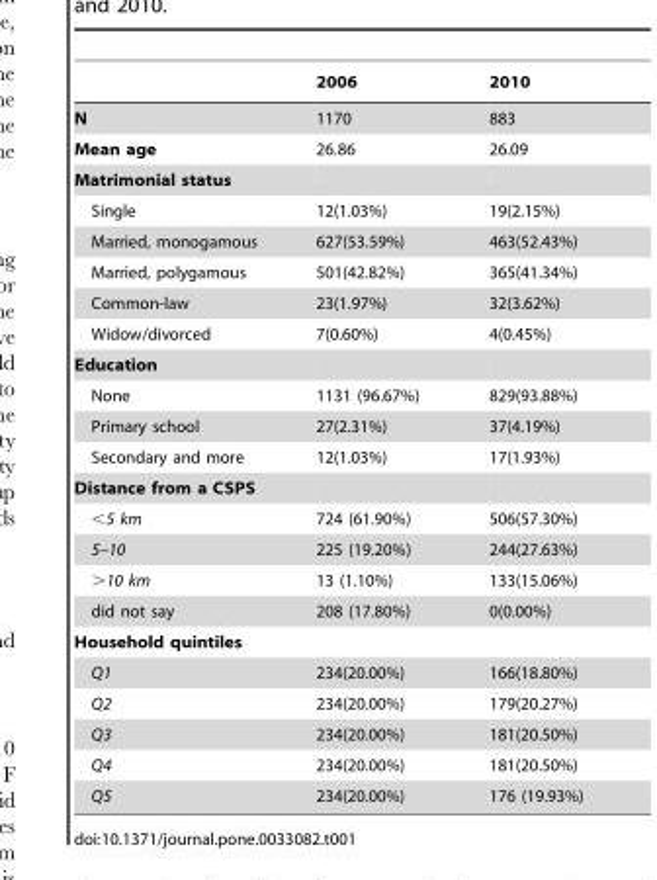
<table><thead><tr><td></td><td>2006</td><td>2010</td></tr></thead><tbody><tr><td>N</td><td>1170</td><td>883</td></tr><tr><td>Mean age</td><td>26.86</td><td>26.09</td></tr><tr><td colspan="3">Matrimonial status</td></tr><tr><td>Single</td><td>12(1.03%)</td><td>19(2.15%)</td></tr><tr><td>Married, monogamous</td><td>627(53.59%)</td><td>463(52.43%)</td></tr><tr><td>Married, polygamous</td><td>501(42.82%)</td><td>365(41.34%)</td></tr><tr><td>Common-law</td><td>23(1.97%)</td><td>32(3.62%)</td></tr><tr><td>Widow/divorced</td><td>7(0.60%)</td><td>4(0.45%)</td></tr><tr><td colspan="3">Education</td></tr><tr><td>None</td><td>1131 (96.67%)</td><td>829(93.88%)</td></tr><tr><td>Primary school</td><td>27(2.31%)</td><td>37(4.19%)</td></tr><tr><td>Secondary and more</td><td>12(1.03%)</td><td>17(1.93%)</td></tr><tr><td colspan="3">Distance from a CSPS</td></tr><tr><td>&lt;5 km</td><td>724 (61.90%)</td><td>506(57.30%)</td></tr><tr><td>5–10</td><td>225 (19.20%)</td><td>244(27.63%)</td></tr><tr><td>&gt;10 km</td><td>13 (1.10%)</td><td>133(15.06%)</td></tr><tr><td>did not say</td><td>208 (17.80%)</td><td>0(0.00%)</td></tr><tr><td colspan="3">Household quintiles</td></tr><tr><td>Q1</td><td>234(20.00%)</td><td>166(18.80%)</td></tr><tr><td>Q2</td><td>234(20.00%)</td><td>179(20.27%)</td></tr><tr><td>Q3</td><td>234(20.00%)</td><td>181(20.50%)</td></tr><tr><td>Q4</td><td>234(20.00%)</td><td>181(20.50%)</td></tr><tr><td>Q5</td><td>234(20.00%)</td><td>176 (19.93%)</td></tr></tbody></table>